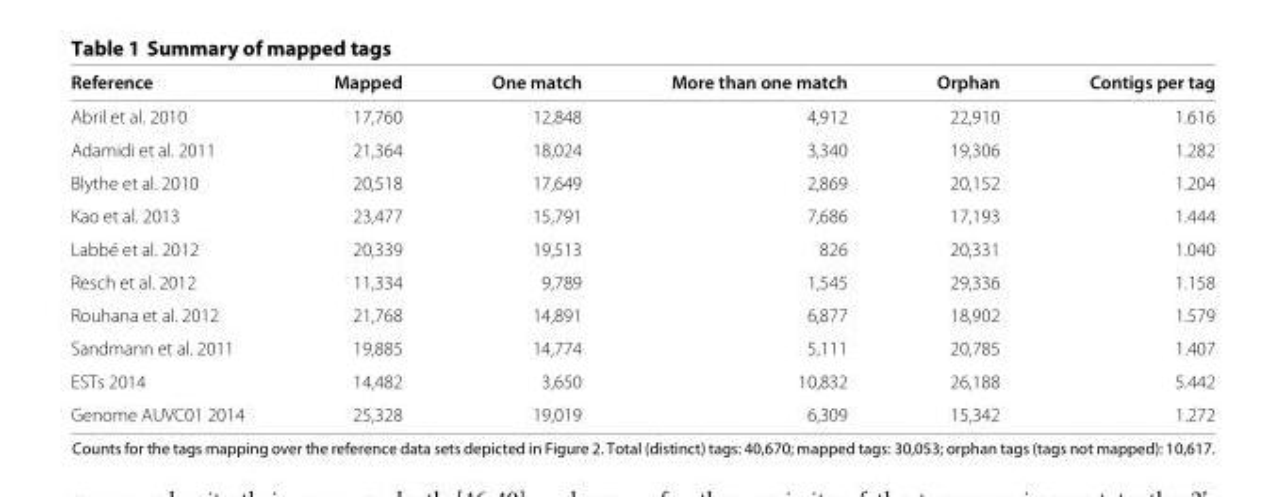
<table><thead><tr><td>Reference</td><td>Mapped</td><td>One match</td><td>More than one match</td><td>Orphan</td><td>Contigs per tag</td></tr></thead><tbody><tr><td>Abril et al. 2010</td><td>17,760</td><td>12,848</td><td>4,912</td><td>22,910</td><td>1.616</td></tr><tr><td>Adamidi et al. 2011</td><td>21,364</td><td>18,024</td><td>3,340</td><td>19,306</td><td>1.282</td></tr><tr><td>Blythe et al. 2010</td><td>20,518</td><td>17,649</td><td>2,869</td><td>20,152</td><td>1.204</td></tr><tr><td>Kao et al. 2013</td><td>23,477</td><td>15,791</td><td>7,686</td><td>17,193</td><td>1.444</td></tr><tr><td>Labbé et al. 2012</td><td>20,339</td><td>19,513</td><td>826</td><td>20,331</td><td>1.040</td></tr><tr><td>Resch et al. 2012</td><td>11,334</td><td>9,789</td><td>1,545</td><td>29,336</td><td>1.158</td></tr><tr><td>Rouhana et al. 2012</td><td>21,768</td><td>14,891</td><td>6,877</td><td>18,902</td><td>1.579</td></tr><tr><td>Sandmann et al. 2011</td><td>19,885</td><td>14,774</td><td>5,111</td><td>20,785</td><td>1.407</td></tr><tr><td>ESTs 2014</td><td>14,482</td><td>3,650</td><td>10,832</td><td>26,188</td><td>5.442</td></tr><tr><td>Genome AUVC01 2014</td><td>25,328</td><td>19,019</td><td>6,309</td><td>15,342</td><td>1.272</td></tr></tbody></table>